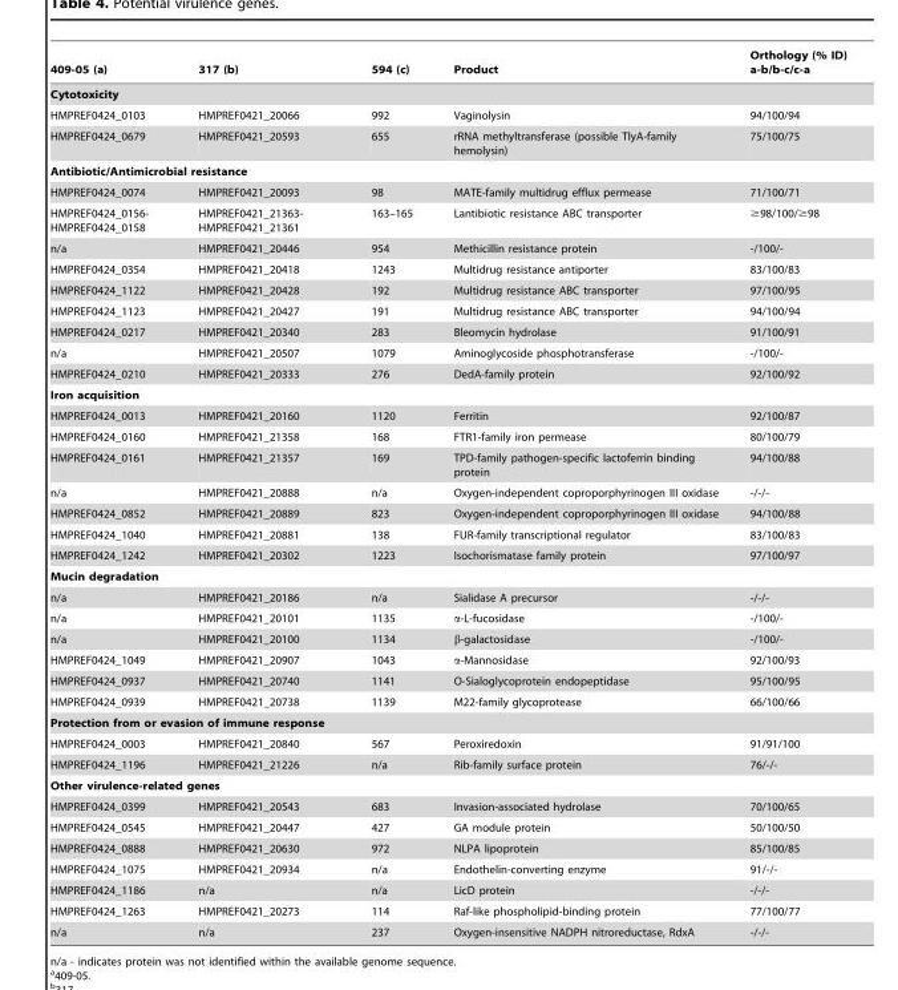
<table><thead><tr><td>409-05 (a)</td><td>317 (b)</td><td>594 (c)</td><td>Product</td><td>Orthology (% ID) a-b/b-c/c-a</td></tr></thead><tbody><tr><td colspan="5">Cytotoxicity</td></tr><tr><td>HMPREF0424_0103</td><td>HMPREF0421_20066</td><td>992</td><td>Vaginolysin</td><td>94/100/94</td></tr><tr><td>HMPREF0424_0679</td><td>HMPREF0421_20593</td><td>655</td><td>rRNA methyltransferase (possible TlyA-family hemolysin)</td><td>75/100/75</td></tr><tr><td colspan="5">Antibiotic/Antimicrobial resistance</td></tr><tr><td>HMPREF0424_0074</td><td>HMPREF0421_20093</td><td>98</td><td>MATE-family multidrug efflux permease</td><td>71/100/71</td></tr><tr><td>HMPREF0424_0156- HMPREF0424_0158</td><td>HMPREF0421_21363- HMPREF0421_21361</td><td>163–165</td><td>Lantibiotic resistance ABC transporter</td><td>≥98/100/≥98</td></tr><tr><td>n/a</td><td>HMPREF0421_20446</td><td>954</td><td>Methicillin resistance protein</td><td>-/100/-</td></tr><tr><td>HMPREF0424_0354</td><td>HMPREF0421_20418</td><td>1243</td><td>Multidrug resistance antiporter</td><td>83/100/83</td></tr><tr><td>HMPREF0424_1122</td><td>HMPREF0421_20428</td><td>192</td><td>Multidrug resistance ABC transporter</td><td>97/100/95</td></tr><tr><td>HMPREF0424_1123</td><td>HMPREF0421_20427</td><td>191</td><td>Multidrug resistance ABC transporter</td><td>94/100/94</td></tr><tr><td>HMPREF0424_0217</td><td>HMPREF0421_20340</td><td>283</td><td>Bleomycin hydrolase</td><td>91/100/91</td></tr><tr><td>n/a</td><td>HMPREF0421_20507</td><td>1079</td><td>Aminoglycoside phosphotransferase</td><td>-/100/-</td></tr><tr><td>HMPREF0424_0210</td><td>HMPREF0421_20333</td><td>276</td><td>DedA-family protein</td><td>92/100/92</td></tr><tr><td colspan="5">Iron acquisition</td></tr><tr><td>HMPREF0424_0013</td><td>HMPREF0421_20160</td><td>1120</td><td>Ferritin</td><td>92/100/87</td></tr><tr><td>HMPREF0424_0160</td><td>HMPREF0421_21358</td><td>168</td><td>FTR1-family iron permease</td><td>80/100/79</td></tr><tr><td>HMPREF0424_0161</td><td>HMPREF0421_21357</td><td>169</td><td>TPD-family pathogen-specific lactoferrin binding protein</td><td>94/100/88</td></tr><tr><td>n/a</td><td>HMPREF0421_20888</td><td>n/a</td><td>Oxygen-independent coproporphyrinogen III oxidase</td><td>-/-/-</td></tr><tr><td>HMPREF0424_0852</td><td>HMPREF0421_20889</td><td>823</td><td>Oxygen-independent coproporphyrinogen III oxidase</td><td>94/100/88</td></tr><tr><td>HMPREF0424_1040</td><td>HMPREF0421_20881</td><td>138</td><td>FUR-family transcriptional regulator</td><td>83/100/83</td></tr><tr><td>HMPREF0424_1242</td><td>HMPREF0421_20302</td><td>1223</td><td>Isochorismatase family protein</td><td>97/100/97</td></tr><tr><td colspan="5">Mucin degradation</td></tr><tr><td>n/a</td><td>HMPREF0421_20186</td><td>n/a</td><td>Sialidase A precursor</td><td>-/-/-</td></tr><tr><td>n/a</td><td>HMPREF0421_20101</td><td>1135</td><td>α-L-fucosidase</td><td>-/100/-</td></tr><tr><td>n/a</td><td>HMPREF0421_20100</td><td>1134</td><td>β-galactosidase</td><td>-/100/-</td></tr><tr><td>HMPREF0424_1049</td><td>HMPREF0421_20907</td><td>1043</td><td>α-Mannosidase</td><td>92/100/93</td></tr><tr><td>HMPREF0424_0937</td><td>HMPREF0421_20740</td><td>1141</td><td>O-Sialoglycoprotein endopeptidase</td><td>95/100/95</td></tr><tr><td>HMPREF0424_0939</td><td>HMPREF0421_20738</td><td>1139</td><td>M22-family glycoprotease</td><td>66/100/66</td></tr><tr><td colspan="5">Protection from or evasion of immune response</td></tr><tr><td>HMPREF0424_0003</td><td>HMPREF0421_20840</td><td>567</td><td>Peroxiredoxin</td><td>91/91/100</td></tr><tr><td>HMPREF0424_1196</td><td>HMPREF0421_21226</td><td>n/a</td><td>Rib-family surface protein</td><td>76/-/-</td></tr><tr><td colspan="5">Other virulence-related genes</td></tr><tr><td>HMPREF0424_0399</td><td>HMPREF0421_20543</td><td>683</td><td>Invasion-associated hydrolase</td><td>70/100/65</td></tr><tr><td>HMPREF0424_0545</td><td>HMPREF0421_20447</td><td>427</td><td>GA module protein</td><td>50/100/50</td></tr><tr><td>HMPREF0424_0888</td><td>HMPREF0421_20630</td><td>972</td><td>NLPA lipoprotein</td><td>85/100/85</td></tr><tr><td>HMPREF0424_1075</td><td>HMPREF0421_20934</td><td>n/a</td><td>Endothelin-converting enzyme</td><td>91/-/-</td></tr><tr><td>HMPREF0424_1186</td><td>n/a</td><td>n/a</td><td>LicD protein</td><td>-/-/-</td></tr><tr><td>HMPREF0424_1263</td><td>HMPREF0421_20273</td><td>114</td><td>Raf-like phospholipid-binding protein</td><td>77/100/77</td></tr><tr><td>n/a</td><td>n/a</td><td>237</td><td>Oxygen-insensitive NADPH nitroreductase, RdxA</td><td>-/-/-</td></tr></tbody></table>